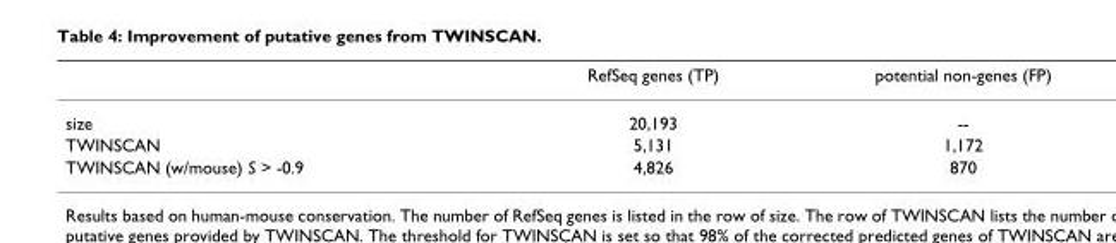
<table><thead><tr><td></td><td>RefSeq genes (TP)</td><td>potential non-genes (FP)</td></tr></thead><tbody><tr><td>size</td><td>20,193</td><td>--</td></tr><tr><td>TWINSCAN</td><td>5,131</td><td>1,172</td></tr><tr><td>TWINSCAN (w/mouse) S &gt; -0.9</td><td>4,826</td><td>870</td></tr></tbody></table>